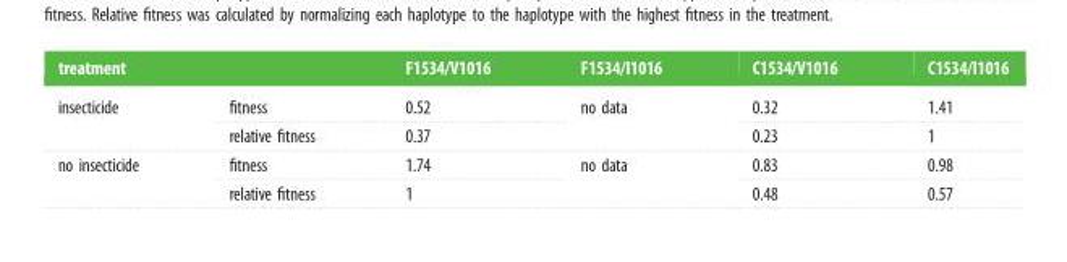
<table><thead><tr><td>treatment</td><td></td><td>F1534/V1016</td><td>F1534/I1016</td><td>C1534/V1016</td><td>C1534/I1016</td></tr></thead><tbody><tr><td rowspan="2">insecticide</td><td>fitness</td><td>0.52</td><td rowspan="2">no data</td><td>0.32</td><td>1.41</td></tr><tr><td>relative fitness</td><td>0.37</td><td>0.23</td><td>1</td></tr><tr><td rowspan="2">no insecticide</td><td>fitness</td><td>1.74</td><td rowspan="2">no data</td><td>0.83</td><td>0.98</td></tr><tr><td>relative fitness</td><td>1</td><td>0.48</td><td>0.57</td></tr></tbody></table>